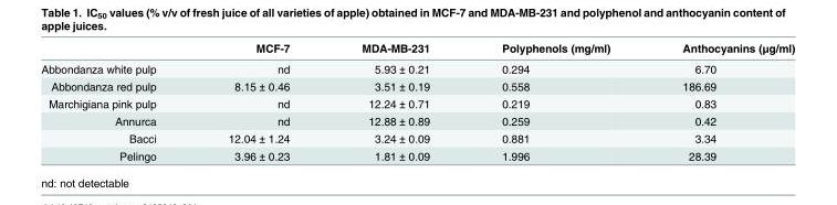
<table><thead><tr><td></td><td>MCF-7</td><td>MDA-MB-231</td><td>Polyphenols (mg/ml)</td><td>Anthocyanins (μg/ml)</td></tr></thead><tbody><tr><td>Abbondanza white pulp</td><td>nd</td><td>5.93 ± 0.21</td><td>0.294</td><td>6.70</td></tr><tr><td>Abbondanza red pulp</td><td>8.15 ± 0.46</td><td>3.51 ± 0.19</td><td>0.558</td><td>186.69</td></tr><tr><td>Marchigiana pink pulp</td><td>nd</td><td>12.24 ± 0.71</td><td>0.219</td><td>0.83</td></tr><tr><td>Annurca</td><td>nd</td><td>12.88 ± 0.89</td><td>0.259</td><td>0.42</td></tr><tr><td>Bacci</td><td>12.04 ± 1.24</td><td>3.24 ± 0.09</td><td>0.881</td><td>3.34</td></tr><tr><td>Pelingo</td><td>3.96 ± 0.23</td><td>1.81 ± 0.09</td><td>1.996</td><td>28.39</td></tr></tbody></table>